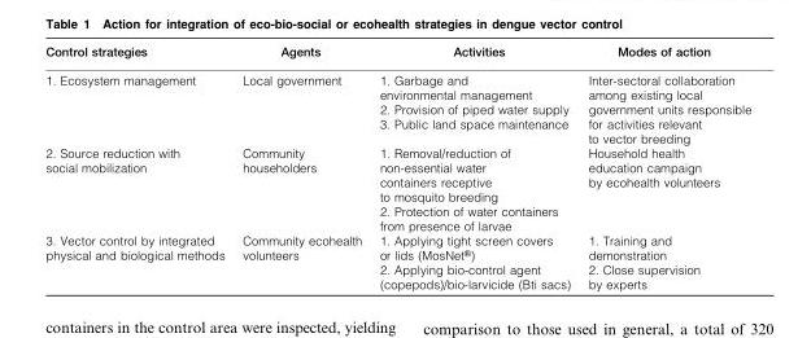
<table><thead><tr><td>Control strategies</td><td>Agents</td><td>Activities</td><td>Modes of action</td></tr></thead><tbody><tr><td rowspan="3">1. Ecosystem management</td><td rowspan="3">Local government</td><td>1. Garbage and environmental management</td><td rowspan="3">Inter-sectoral collaboration among existing local government units responsible for activities relevant to vector breeding</td></tr><tr><td>2. Provision of piped water supply</td></tr><tr><td>3. Public land space maintenance</td></tr><tr><td rowspan="2">2. Source reduction with social mobilization</td><td rowspan="2">Community householders</td><td>1. Removal/reduction of non-essential water containers receptive to mosquito breeding</td><td rowspan="2">Household health education campaign by ecohealth volunteers</td></tr><tr><td>2. Protection of water containers from presence of larvae</td></tr><tr><td rowspan="2">3. Vector control by integrated physical and biological methods</td><td rowspan="2">Community ecohealth volunteers</td><td>1. Applying tight screen covers or lids (MosNet®)</td><td>1. Training and demonstration</td></tr><tr><td>2. Applying bio-control agent (copepods)/bio-larvicide (Bti sacs)</td><td>2. Close supervision by experts</td></tr></tbody></table>